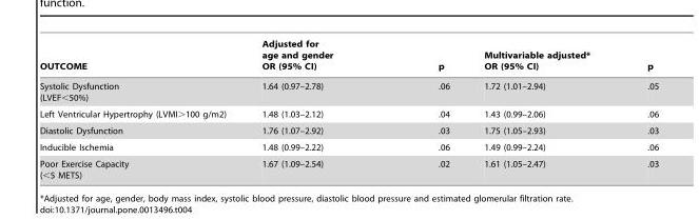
<table><thead><tr><td>OUTCOME</td><td>Adjusted for age and gender OR (95% CI)</td><td>p</td><td>Multivariable adjusted* OR (95% CI)</td><td>p</td></tr></thead><tbody><tr><td>Systolic Dysfunction (LVEF&lt;50%)</td><td>1.64 (0.97–2.78)</td><td>.06</td><td>1.72 (1.01–2.94)</td><td>.05</td></tr><tr><td>Left Ventricular Hypertrophy (LVMI&gt;100 g/m2)</td><td>1.48 (1.03–2.12)</td><td>.04</td><td>1.43 (0.99–2.06)</td><td>.06</td></tr><tr><td>Diastolic Dysfunction</td><td>1.76 (1.07–2.92)</td><td>.03</td><td>1.75 (1.05–2.93)</td><td>.03</td></tr><tr><td>Inducible Ischemia</td><td>1.48 (0.99–2.22)</td><td>.06</td><td>1.49 (0.99–2.24)</td><td>.06</td></tr><tr><td>Poor Exercise Capacity (&lt;5 METS)</td><td>1.67 (1.09–2.54)</td><td>.02</td><td>1.61 (1.05–2.47)</td><td>.03</td></tr></tbody></table>